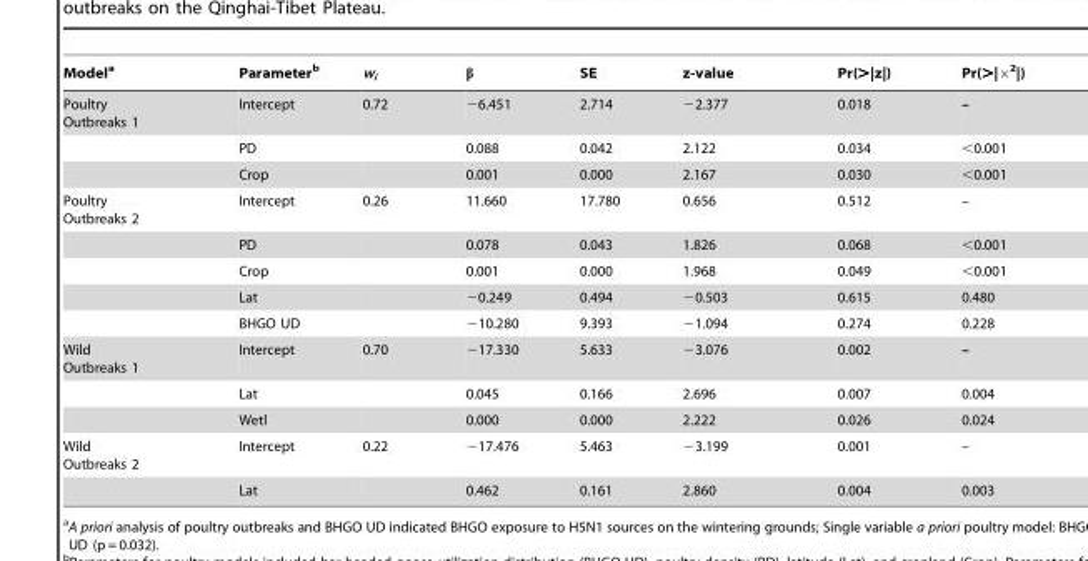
<table><thead><tr><td>Model<sup>a</sup></td><td>Parameter<sup>b</sup></td><td>w<sub>i</sub></td><td>β</td><td>SE</td><td>z-value</td><td>Pr(&gt;|z|)</td><td>Pr(&gt;|×<sup>2</sup>|)</td></tr></thead><tbody><tr><td rowspan="3">Poultry Outbreaks 1</td><td>Intercept</td><td>0.72</td><td>−6.451</td><td>2.714</td><td>−2.377</td><td>0.018</td><td>–</td></tr><tr><td>PD</td><td></td><td>0.088</td><td>0.042</td><td>2.122</td><td>0.034</td><td>&lt;0.001</td></tr><tr><td>Crop</td><td></td><td>0.001</td><td>0.000</td><td>2.167</td><td>0.030</td><td>&lt;0.001</td></tr><tr><td rowspan="5">Poultry Outbreaks 2</td><td>Intercept</td><td>0.26</td><td>11.660</td><td>17.780</td><td>0.656</td><td>0.512</td><td>–</td></tr><tr><td>PD</td><td></td><td>0.078</td><td>0.043</td><td>1.826</td><td>0.068</td><td>&lt;0.001</td></tr><tr><td>Crop</td><td></td><td>0.001</td><td>0.000</td><td>1.968</td><td>0.049</td><td>&lt;0.001</td></tr><tr><td>Lat</td><td></td><td>−0.249</td><td>0.494</td><td>−0.503</td><td>0.615</td><td>0.480</td></tr><tr><td>BHGO UD</td><td></td><td>−10.280</td><td>9.393</td><td>−1.094</td><td>0.274</td><td>0.228</td></tr><tr><td rowspan="3">Wild Outbreaks 1</td><td>Intercept</td><td>0.70</td><td>−17.330</td><td>5.633</td><td>−3.076</td><td>0.002</td><td>–</td></tr><tr><td>Lat</td><td></td><td>0.045</td><td>0.166</td><td>2.696</td><td>0.007</td><td>0.004</td></tr><tr><td>Wetl</td><td></td><td>0.000</td><td>0.000</td><td>2.222</td><td>0.026</td><td>0.024</td></tr><tr><td rowspan="2">Wild Outbreaks 2</td><td>Intercept</td><td>0.22</td><td>−17.476</td><td>5.463</td><td>−3.199</td><td>0.001</td><td>–</td></tr><tr><td>Lat</td><td></td><td>0.462</td><td>0.161</td><td>2.860</td><td>0.004</td><td>0.003</td></tr></tbody></table>